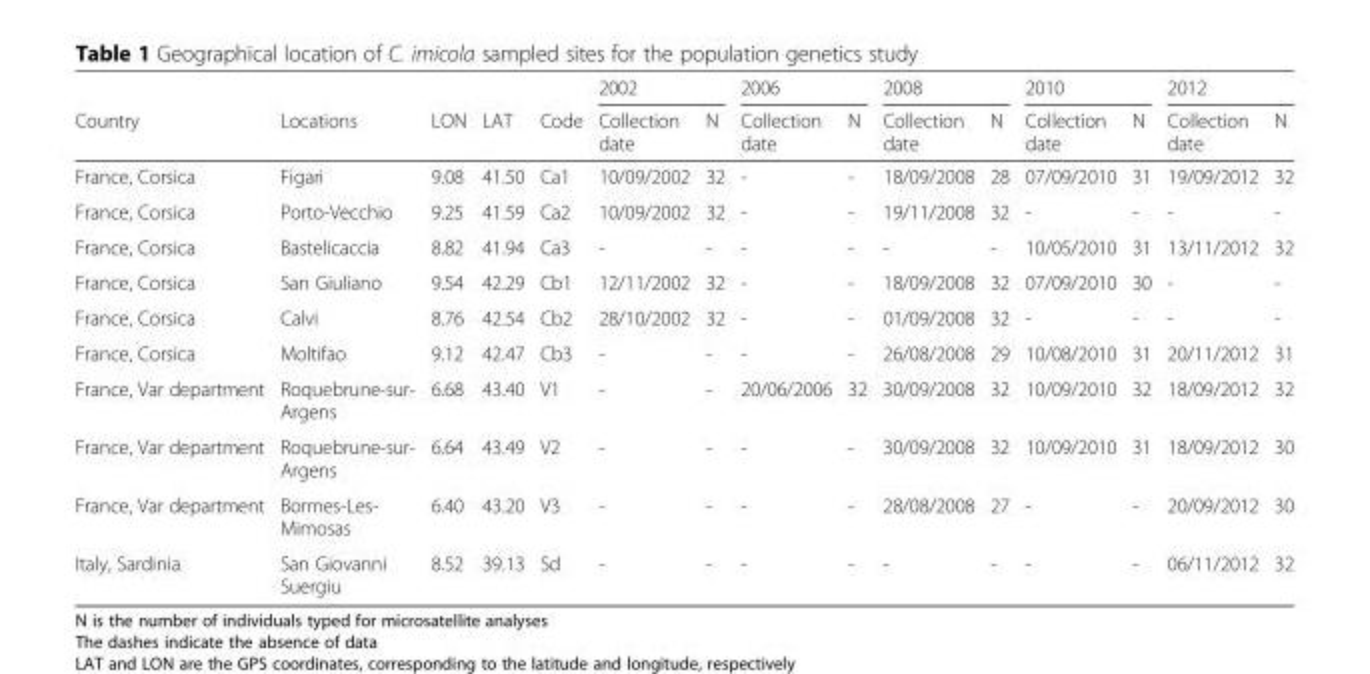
<table><thead><tr><td rowspan="2">Country</td><td rowspan="2">Locations</td><td rowspan="2">LON</td><td rowspan="2">LAT</td><td rowspan="2">Code</td><td colspan="2">2002</td><td colspan="2">2006</td><td colspan="2">2008</td><td colspan="2">2010</td><td colspan="2">2012</td></tr><tr><td>Collection date</td><td>N</td><td>Collection date</td><td>N</td><td>Collection date</td><td>N</td><td>Collection date</td><td>N</td><td>Collection date</td><td>N</td></tr></thead><tbody><tr><td>France, Corsica</td><td>Figari</td><td>9.08</td><td>41.50</td><td>Ca1</td><td>10/09/2002</td><td>32</td><td>-</td><td>-</td><td>18/09/2008</td><td>28</td><td>07/09/2010</td><td>31</td><td>19/09/2012</td><td>32</td></tr><tr><td>France, Corsica</td><td>Porto-Vecchio</td><td>9.25</td><td>41.59</td><td>Ca2</td><td>10/09/2002</td><td>32</td><td>-</td><td>-</td><td>19/11/2008</td><td>32</td><td>-</td><td>-</td><td>-</td><td>-</td></tr><tr><td>France, Corsica</td><td>Bastelicaccia</td><td>8.82</td><td>41.94</td><td>Ca3</td><td>-</td><td>-</td><td>-</td><td>-</td><td>-</td><td>-</td><td>10/05/2010</td><td>31</td><td>13/11/2012</td><td>32</td></tr><tr><td>France, Corsica</td><td>San Giuliano</td><td>9.54</td><td>42.29</td><td>Cb1</td><td>12/11/2002</td><td>32</td><td>-</td><td>-</td><td>18/09/2008</td><td>32</td><td>07/09/2010</td><td>30</td><td>-</td><td>-</td></tr><tr><td>France, Corsica</td><td>Calvi</td><td>8.76</td><td>42.54</td><td>Cb2</td><td>28/10/2002</td><td>32</td><td>-</td><td>-</td><td>01/09/2008</td><td>32</td><td>-</td><td>-</td><td>-</td><td>-</td></tr><tr><td>France, Corsica</td><td>Moltifao</td><td>9.12</td><td>42.47</td><td>Cb3</td><td>-</td><td>-</td><td>-</td><td>-</td><td>26/08/2008</td><td>29</td><td>10/08/2010</td><td>31</td><td>20/11/2012</td><td>31</td></tr><tr><td>France, Var department</td><td>Roquebrune-sur- Argens</td><td>6.68</td><td>43.40</td><td>V1</td><td>-</td><td>-</td><td>20/06/2006</td><td>32</td><td>30/09/2008</td><td>32</td><td>10/09/2010</td><td>32</td><td>18/09/2012</td><td>32</td></tr><tr><td>France, Var department</td><td>Roquebrune-sur- Argens</td><td>6.64</td><td>43.49</td><td>V2</td><td>-</td><td>-</td><td>-</td><td>-</td><td>30/09/2008</td><td>32</td><td>10/09/2010</td><td>31</td><td>18/09/2012</td><td>30</td></tr><tr><td>France, Var department</td><td>Bormes-Les- Mimosas</td><td>6.40</td><td>43.20</td><td>V3</td><td>-</td><td>-</td><td>-</td><td>-</td><td>28/08/2008</td><td>27</td><td>-</td><td>-</td><td>20/09/2012</td><td>30</td></tr><tr><td>Italy, Sardinia</td><td>San Giovanni Suergiu</td><td>8.52</td><td>39.13</td><td>Sd</td><td>-</td><td>-</td><td>-</td><td>-</td><td>-</td><td>-</td><td>-</td><td>-</td><td>06/11/2012</td><td>32</td></tr></tbody></table>